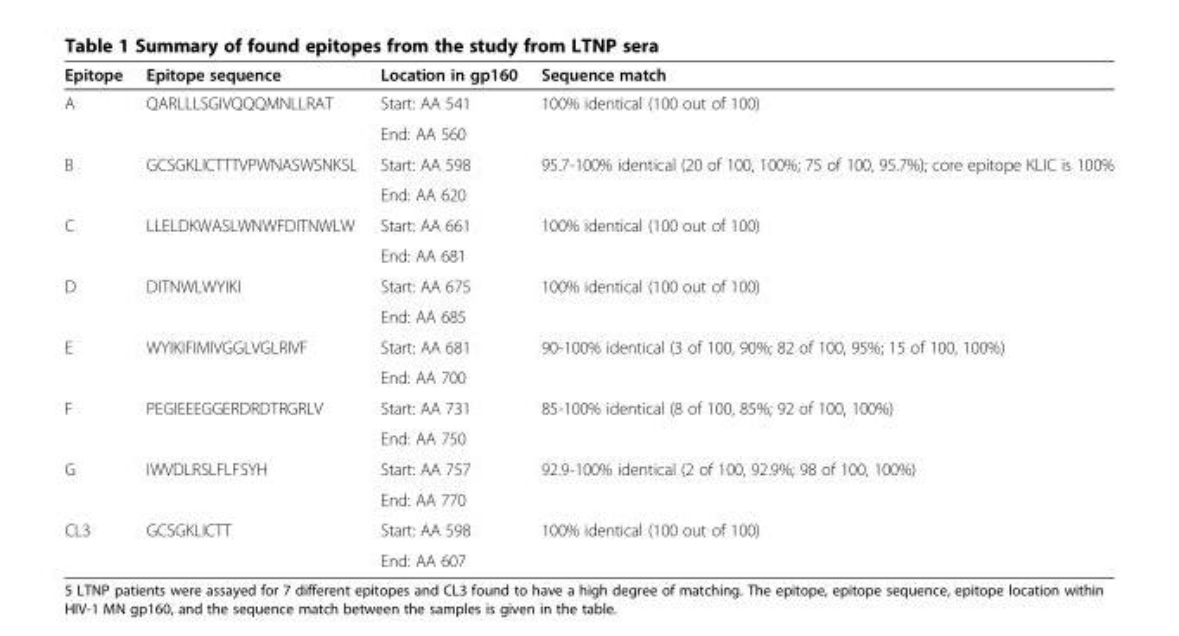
<table><thead><tr><td>Epitope</td><td>Epitope sequence</td><td>Location in gp160</td><td>Sequence match</td></tr></thead><tbody><tr><td rowspan="2">A</td><td rowspan="2">QARLLLSGIVQQQMNLLRAT</td><td>Start: AA 541</td><td rowspan="2">100% identical (100 out of 100)</td></tr><tr><td>End: AA 560</td></tr><tr><td rowspan="2">B</td><td rowspan="2">GCSGKLICTTTVPWNASWSNKSL</td><td>Start: AA 598</td><td rowspan="2">95.7-100% identical (20 of 100, 100%; 75 of 100, 95.7%); core epitope KLIC is 100%</td></tr><tr><td>End: AA 620</td></tr><tr><td rowspan="2">C</td><td rowspan="2">LLELDKWASLWNWFDITNWLW</td><td>Start: AA 661</td><td rowspan="2">100% identical (100 out of 100)</td></tr><tr><td>End: AA 681</td></tr><tr><td rowspan="2">D</td><td rowspan="2">DITNWLWYIKI</td><td>Start: AA 675</td><td rowspan="2">100% identical (100 out of 100)</td></tr><tr><td>End: AA 685</td></tr><tr><td rowspan="2">E</td><td rowspan="2">WYIKIFIMIVGGLVGLRIVF</td><td>Start: AA 681</td><td rowspan="2">90-100% identical (3 of 100, 90%; 82 of 100, 95%; 15 of 100, 100%)</td></tr><tr><td>End: AA 700</td></tr><tr><td rowspan="2">F</td><td rowspan="2">PEGIEEEGGERDRDTRGRLV</td><td>Start: AA 731</td><td rowspan="2">85-100% identical (8 of 100, 85%; 92 of 100, 100%)</td></tr><tr><td>End: AA 750</td></tr><tr><td rowspan="2">G</td><td rowspan="2">IWVDLRSLFLFSYH</td><td>Start: AA 757</td><td rowspan="2">92.9-100% identical (2 of 100, 92.9%; 98 of 100, 100%)</td></tr><tr><td>End: AA 770</td></tr><tr><td rowspan="2">CL3</td><td rowspan="2">GCSGKLICTT</td><td>Start: AA 598</td><td rowspan="2">100% identical (100 out of 100)</td></tr><tr><td>End: AA 607</td></tr></tbody></table>